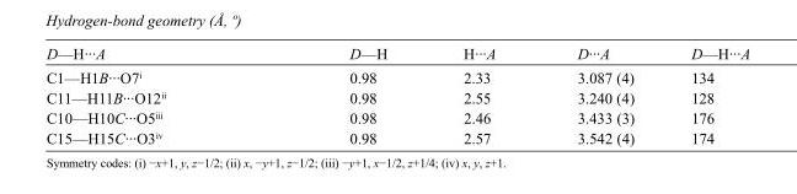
<table><tbody><tr><td>D—H···A</td><td>D—H</td><td>H···A</td><td>D···A</td><td>D—H···A</td></tr><tr><td>C1—H1B···O7<sup>i</sup></td><td>0.98</td><td>2.33</td><td>3.087 (4)</td><td>134</td></tr><tr><td>C11—H11B···O12<sup>ii</sup></td><td>0.98</td><td>2.55</td><td>3.240 (4)</td><td>128</td></tr><tr><td>C10—H10C···O5<sup>iii</sup></td><td>0.98</td><td>2.46</td><td>3.433 (3)</td><td>176</td></tr><tr><td>C15—H15C···O3<sup>iv</sup></td><td>0.98</td><td>2.57</td><td>3.542 (4)</td><td>174</td></tr></tbody></table>